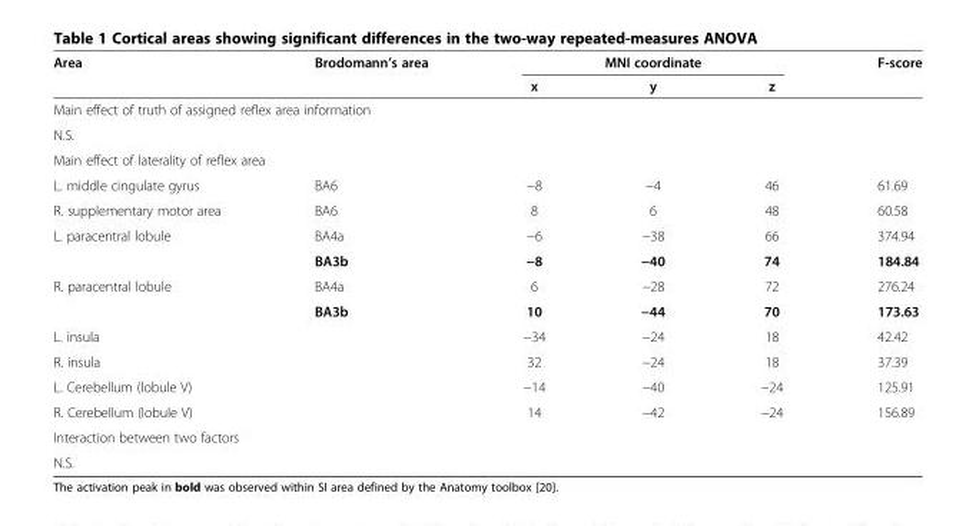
<table><thead><tr><td rowspan="2">Area</td><td rowspan="2">Brodomann’s area</td><td colspan="3">MNI coordinate</td><td rowspan="2">F-score</td></tr><tr><td>x</td><td>y</td><td>z</td></tr></thead><tbody><tr><td colspan="6">Main effect of truth of assigned reflex area information</td></tr><tr><td colspan="6">N.S.</td></tr><tr><td colspan="6">Main effect of laterality of reflex area</td></tr><tr><td>L. middle cingulate gyrus</td><td>BA6</td><td>−8</td><td>−4</td><td>46</td><td>61.69</td></tr><tr><td>R. supplementary motor area</td><td>BA6</td><td>8</td><td>6</td><td>48</td><td>60.58</td></tr><tr><td rowspan="2">L. paracentral lobule</td><td>BA4a</td><td>−6</td><td>−38</td><td>66</td><td>374.94</td></tr><tr><td>BA3b</td><td>−8</td><td>−40</td><td>74</td><td>184.84</td></tr><tr><td rowspan="2">R. paracentral lobule</td><td>BA4a</td><td>6</td><td>−28</td><td>72</td><td>276.24</td></tr><tr><td>BA3b</td><td>10</td><td>−44</td><td>70</td><td>173.63</td></tr><tr><td>L. insula</td><td></td><td>−34</td><td>−24</td><td>18</td><td>42.42</td></tr><tr><td>R. insula</td><td></td><td>32</td><td>−24</td><td>18</td><td>37.39</td></tr><tr><td>L. Cerebellum (lobule V)</td><td></td><td>−14</td><td>−40</td><td>−24</td><td>125.91</td></tr><tr><td>R. Cerebellum (lobule V)</td><td></td><td>14</td><td>−42</td><td>−24</td><td>156.89</td></tr><tr><td colspan="6">Interaction between two factors</td></tr><tr><td colspan="6">N.S.</td></tr></tbody></table>